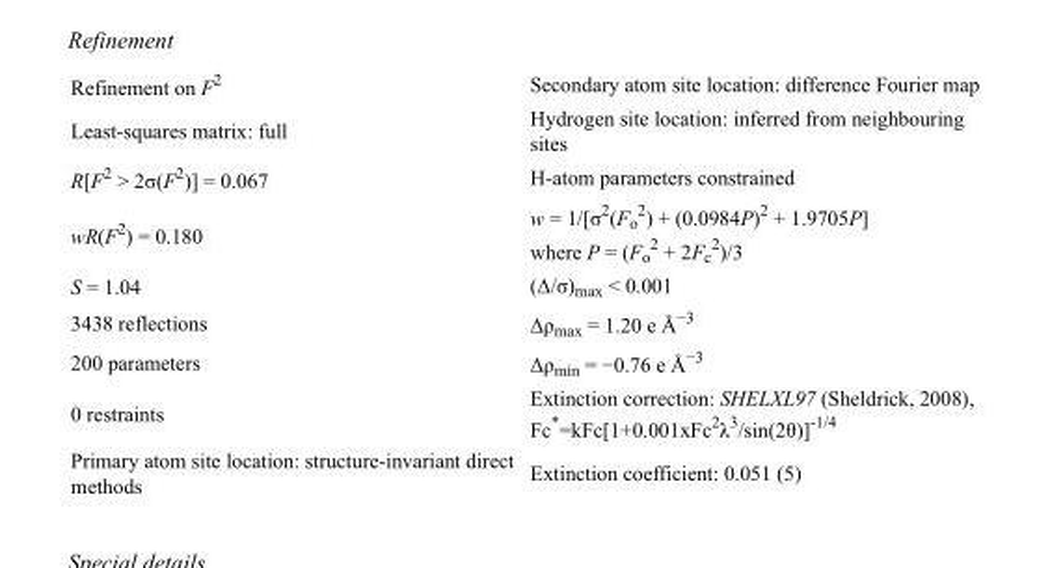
<table><tbody><tr><td>Refinement on F<sup>2</sup></td><td>Secondary atom site location: difference Fourier map</td></tr><tr><td>Least-squares matrix: full</td><td>Hydrogen site location: inferred from neighbouring sites</td></tr><tr><td>R[F<sup>2</sup> &gt; 2σ(F<sup>2</sup>)] = 0.067</td><td>H-atom parameters constrained</td></tr><tr><td>wR(F<sup>2</sup>) = 0.180</td><td>w = 1/[σ<sup>2</sup>(F<sub>o</sub> <sup>2</sup>) + (0.0984P)<sup>2</sup> + 1.9705P] where P = (F<sub>o</sub> <sup>2</sup> + 2F<sub>c</sub> <sup>2</sup>)/3</td></tr><tr><td>S = 1.04</td><td>(Δ/σ)<sub>max</sub> &lt; 0.001</td></tr><tr><td>3438 reflections</td><td>Δρ<sub>max</sub> = 1.20 e Å<sup>−3</sup></td></tr><tr><td>200 parameters</td><td>Δρ<sub>min</sub> = −0.76 e Å<sup>−3</sup></td></tr><tr><td>0 restraints</td><td>Extinction correction: SHELXL97 (Sheldrick, 2008), Fc*=kFc[1+0.001xFc<sup>2</sup>λ<sup>3</sup>/sin(2θ)]<sup>-1/4</sup></td></tr><tr><td>Primary atom site location: structure-invariant direct methods</td><td>Extinction coefficient: 0.051 (5)</td></tr></tbody></table>